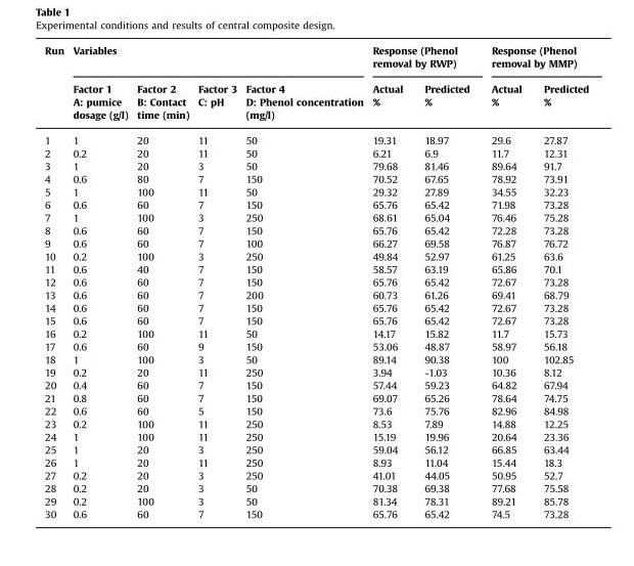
<table><thead><tr><td rowspan="3">Run</td><td colspan="4">Variables</td><td colspan="2">Response (Phenol removal by RWP)</td><td colspan="2">Response (Phenol removal by MMP)</td></tr><tr><td rowspan="2">Factor 1 A: pumice dosage (g/l)</td><td rowspan="2">Factor 2 B: Contact time (min)</td><td rowspan="2">Factor 3 C: pH</td><td rowspan="2">Factor 4 D: Phenol concentration (mg/l)</td><td rowspan="2">Actual %</td><td rowspan="2">Predicted %</td><td rowspan="2">Actual %</td><td rowspan="2">Predicted %</td></tr><tr></tr></thead><tbody><tr><td>1</td><td>1</td><td>20</td><td>11</td><td>50</td><td>19.31</td><td>18.97</td><td>29.6</td><td>27.87</td></tr><tr><td>2</td><td>0.2</td><td>20</td><td>11</td><td>50</td><td>6.21</td><td>6.9</td><td>11.7</td><td>12.31</td></tr><tr><td>3</td><td>1</td><td>20</td><td>3</td><td>50</td><td>79.68</td><td>81.46</td><td>89.64</td><td>91.7</td></tr><tr><td>4</td><td>0.6</td><td>80</td><td>7</td><td>150</td><td>70.52</td><td>67.65</td><td>78.92</td><td>73.91</td></tr><tr><td>5</td><td>1</td><td>100</td><td>11</td><td>50</td><td>29.32</td><td>27.89</td><td>34.55</td><td>32.23</td></tr><tr><td>6</td><td>0.6</td><td>60</td><td>7</td><td>150</td><td>65.76</td><td>65.42</td><td>71.98</td><td>73.28</td></tr><tr><td>7</td><td>1</td><td>100</td><td>3</td><td>250</td><td>68.61</td><td>65.04</td><td>76.46</td><td>75.28</td></tr><tr><td>8</td><td>0.6</td><td>60</td><td>7</td><td>150</td><td>65.76</td><td>65.42</td><td>72.28</td><td>73.28</td></tr><tr><td>9</td><td>0.6</td><td>60</td><td>7</td><td>100</td><td>66.27</td><td>69.58</td><td>76.87</td><td>76.72</td></tr><tr><td>10</td><td>0.2</td><td>100</td><td>3</td><td>250</td><td>49.84</td><td>52.97</td><td>61.25</td><td>63.6</td></tr><tr><td>11</td><td>0.6</td><td>40</td><td>7</td><td>150</td><td>58.57</td><td>63.19</td><td>65.86</td><td>70.1</td></tr><tr><td>12</td><td>0.6</td><td>60</td><td>7</td><td>150</td><td>65.76</td><td>65.42</td><td>72.67</td><td>73.28</td></tr><tr><td>13</td><td>0.6</td><td>60</td><td>7</td><td>200</td><td>60.73</td><td>61.26</td><td>69.41</td><td>68.79</td></tr><tr><td>14</td><td>0.6</td><td>60</td><td>7</td><td>150</td><td>65.76</td><td>65.42</td><td>72.67</td><td>73.28</td></tr><tr><td>15</td><td>0.6</td><td>60</td><td>7</td><td>150</td><td>65.76</td><td>65.42</td><td>72.67</td><td>73.28</td></tr><tr><td>16</td><td>0.2</td><td>100</td><td>11</td><td>50</td><td>14.17</td><td>15.82</td><td>11.7</td><td>15.73</td></tr><tr><td>17</td><td>0.6</td><td>60</td><td>9</td><td>150</td><td>53.06</td><td>48.87</td><td>58.97</td><td>56.18</td></tr><tr><td>18</td><td>1</td><td>100</td><td>3</td><td>50</td><td>89.14</td><td>90.38</td><td>100</td><td>102.85</td></tr><tr><td>19</td><td>0.2</td><td>20</td><td>11</td><td>250</td><td>3.94</td><td>-1.03</td><td>10.36</td><td>8.12</td></tr><tr><td>20</td><td>0.4</td><td>60</td><td>7</td><td>150</td><td>57.44</td><td>59.23</td><td>64.82</td><td>67.94</td></tr><tr><td>21</td><td>0.8</td><td>60</td><td>7</td><td>150</td><td>69.07</td><td>65.26</td><td>78.64</td><td>74.75</td></tr><tr><td>22</td><td>0.6</td><td>60</td><td>5</td><td>150</td><td>73.6</td><td>75.76</td><td>82.96</td><td>84.98</td></tr><tr><td>23</td><td>0.2</td><td>100</td><td>11</td><td>250</td><td>8.53</td><td>7.89</td><td>14.88</td><td>12.25</td></tr><tr><td>24</td><td>1</td><td>100</td><td>11</td><td>250</td><td>15.19</td><td>19.96</td><td>20.64</td><td>23.36</td></tr><tr><td>25</td><td>1</td><td>20</td><td>3</td><td>250</td><td>59.04</td><td>56.12</td><td>66.85</td><td>63.44</td></tr><tr><td>26</td><td>1</td><td>20</td><td>11</td><td>250</td><td>8.93</td><td>11.04</td><td>15.44</td><td>18.3</td></tr><tr><td>27</td><td>0.2</td><td>20</td><td>3</td><td>250</td><td>41.01</td><td>44.05</td><td>50.95</td><td>52.7</td></tr><tr><td>28</td><td>0.2</td><td>20</td><td>3</td><td>50</td><td>70.38</td><td>69.38</td><td>77.68</td><td>75.58</td></tr><tr><td>29</td><td>0.2</td><td>100</td><td>3</td><td>50</td><td>81.34</td><td>78.31</td><td>89.21</td><td>85.78</td></tr><tr><td>30</td><td>0.6</td><td>60</td><td>7</td><td>150</td><td>65.76</td><td>65.42</td><td>74.5</td><td>73.28</td></tr></tbody></table>